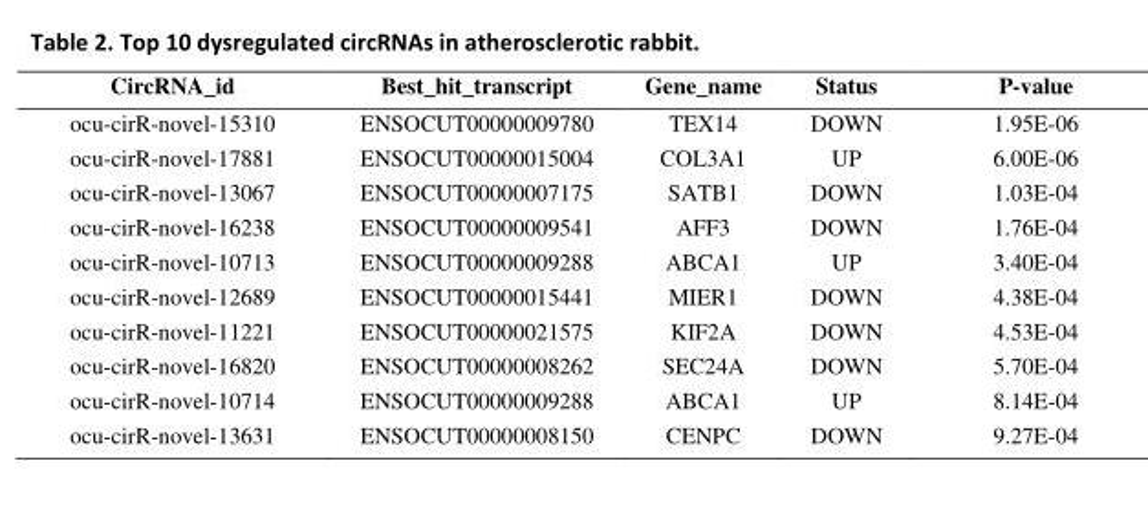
<table><tbody><tr><td>CircRNA_id</td><td>Best_hit_transcript</td><td>Gene_name</td><td>Status</td><td>P-value</td></tr><tr><td>ocu-cirR-novel-15310</td><td>ENSOCUT00000009780</td><td>TEX14</td><td>DOWN</td><td>1.95E-06</td></tr><tr><td>ocu-cirR-novel-17881</td><td>ENSOCUT00000015004</td><td>COL3A1</td><td>UP</td><td>6.00E-06</td></tr><tr><td>ocu-cirR-novel-13067</td><td>ENSOCUT00000007175</td><td>SATB1</td><td>DOWN</td><td>1.03E-04</td></tr><tr><td>ocu-cirR-novel-16238</td><td>ENSOCUT00000009541</td><td>AFF3</td><td>DOWN</td><td>1.76E-04</td></tr><tr><td>ocu-cirR-novel-10713</td><td>ENSOCUT00000009288</td><td>ABCA1</td><td>UP</td><td>3.40E-04</td></tr><tr><td>ocu-cirR-novel-12689</td><td>ENSOCUT00000015441</td><td>MIER1</td><td>DOWN</td><td>4.38E-04</td></tr><tr><td>ocu-cirR-novel-11221</td><td>ENSOCUT00000021575</td><td>KIF2A</td><td>DOWN</td><td>4.53E-04</td></tr><tr><td>ocu-cirR-novel-16820</td><td>ENSOCUT00000008262</td><td>SEC24A</td><td>DOWN</td><td>5.70E-04</td></tr><tr><td>ocu-cirR-novel-10714</td><td>ENSOCUT00000009288</td><td>ABCA1</td><td>UP</td><td>8.14E-04</td></tr><tr><td>ocu-cirR-novel-13631</td><td>ENSOCUT00000008150</td><td>CENPC</td><td>DOWN</td><td>9.27E-04</td></tr></tbody></table>